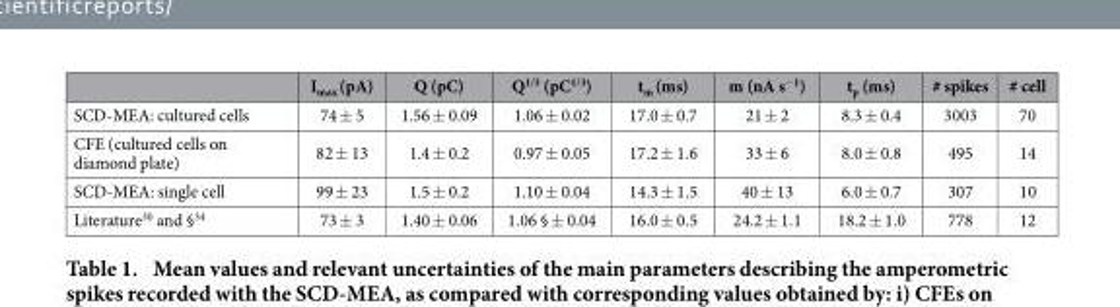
<table><thead><tr><td></td><td>I<sub>max</sub> (pA)</td><td>Q (pC)</td><td>Q<sup>1/3</sup> (pC<sup>1/3</sup>)</td><td>t<sub>m</sub> (ms)</td><td>m (nA s<sup>−1</sup>)</td><td>t<sub>p</sub> (ms)</td><td># spikes</td><td># cell</td></tr></thead><tbody><tr><td>SCD-MEA: cultured cells</td><td>74 ± 5</td><td>1.56 ± 0.09</td><td>1.06 ± 0.02</td><td>17.0 ± 0.7</td><td>21 ± 2</td><td>8.3 ± 0.4</td><td>3003</td><td>70</td></tr><tr><td>CFE (cultured cells on diamond plate)</td><td>82 ± 13</td><td>1.4 ± 0.2</td><td>0.97 ± 0.05</td><td>17.2 ± 1.6</td><td>33 ± 6</td><td>8.0 ± 0.8</td><td>495</td><td>14</td></tr><tr><td>SCD-MEA: single cell</td><td>99 ± 23</td><td>1.5 ± 0.2</td><td>1.10 ± 0.04</td><td>14.3 ± 1.5</td><td>40 ± 13</td><td>6.0 ± 0.7</td><td>307</td><td>10</td></tr><tr><td>Literature<sup>30</sup> and §<sup>34</sup></td><td>73 ± 3</td><td>1.40 ± 0.06</td><td>1.06 § ± 0.04</td><td>16.0 ± 0.5</td><td>24.2 ± 1.1</td><td>18.2 ± 1.0</td><td>778</td><td>12</td></tr></tbody></table>